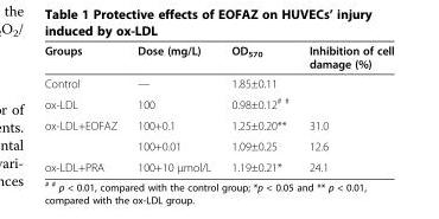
<table><thead><tr><td>Groups</td><td>Dose (mg/L)</td><td>OD<sub>570</sub></td><td>Inhibition of cell damage (%)</td></tr></thead><tbody><tr><td>Control</td><td>—</td><td>1.85±0.11</td><td></td></tr><tr><td>ox-LDL</td><td>100</td><td>0.98±0.12<sup># #</sup></td><td></td></tr><tr><td rowspan="2">ox-LDL+EOFAZ</td><td>100+0.1</td><td>1.25±0.20**</td><td>31.0</td></tr><tr><td>100+0.01</td><td>1.09±0.25</td><td>12.6</td></tr><tr><td>ox-LDL+PRA</td><td>100+10 μmol/L</td><td>1.19±0.21*</td><td>24.1</td></tr></tbody></table>